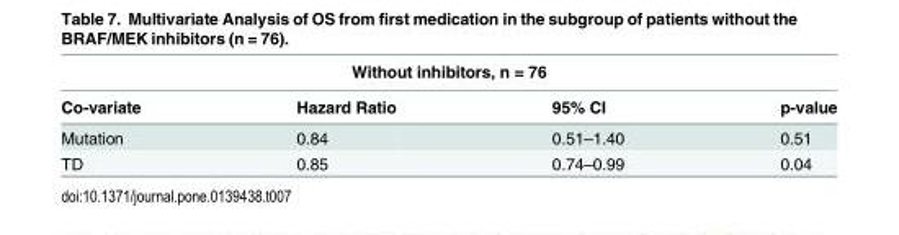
<table><thead><tr><td colspan="4">Without inhibitors, n = 76</td></tr><tr><td>Co-variate</td><td>Hazard Ratio</td><td>95% CI</td><td>p-value</td></tr></thead><tbody><tr><td>Mutation</td><td>0.84</td><td>0.51–1.40</td><td>0.51</td></tr><tr><td>TD</td><td>0.85</td><td>0.74–0.99</td><td>0.04</td></tr></tbody></table>